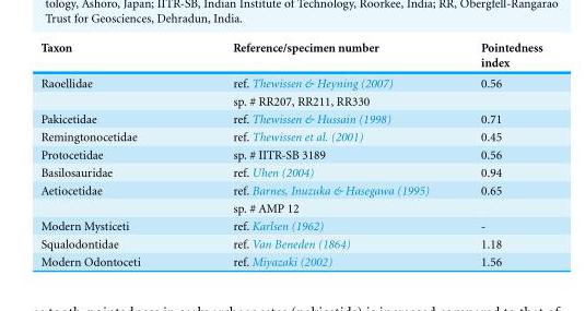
<table><thead><tr><td>Taxon</td><td>Reference/specimen number</td><td>Pointedness index</td></tr></thead><tbody><tr><td rowspan="2">Raoellidae</td><td>ref. Thewissen &amp; Heyning (2007)</td><td>0.56</td></tr><tr><td>sp. # RR207, RR211, RR330</td><td></td></tr><tr><td>Pakicetidae</td><td>ref. Thewissen &amp; Hussain (1998)</td><td>0.71</td></tr><tr><td>Remingtonocetidae</td><td>ref. Thewissen et al. (2001)</td><td>0.45</td></tr><tr><td>Protocetidae</td><td>sp. # IITR-SB 3189</td><td>0.56</td></tr><tr><td>Basilosauridae</td><td>ref. Uhen (2004)</td><td>0.94</td></tr><tr><td rowspan="2">Aetiocetidae</td><td>ref. Barnes, Inuzuka &amp; Hasegawa (1995)</td><td>0.65</td></tr><tr><td>sp. # AMP 12</td><td></td></tr><tr><td>Modern Mysticeti</td><td>ref. Karlsen (1962)</td><td>-</td></tr><tr><td>Squalodontidae</td><td>ref. Van Beneden (1864)</td><td>1.18</td></tr><tr><td>Modern Odontoceti</td><td>ref. Miyazaki (2002)</td><td>1.56</td></tr></tbody></table>